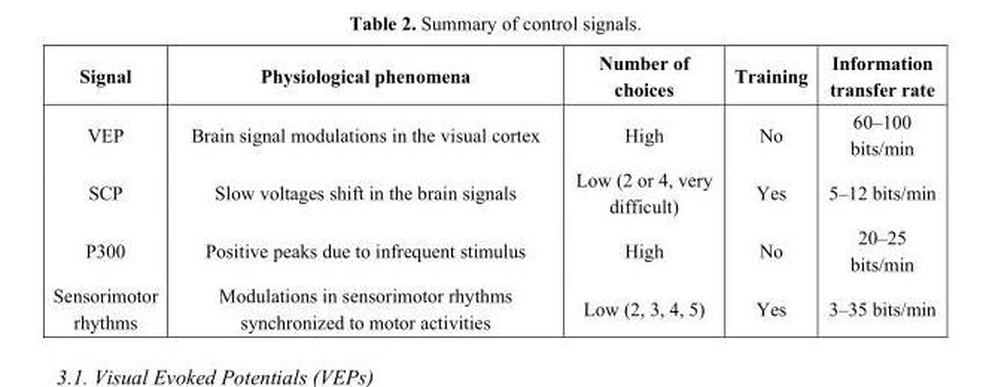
<table><thead><tr><td>Signal</td><td>Physiological phenomena</td><td>Number of choices</td><td>Training</td><td>Information transfer rate</td></tr></thead><tbody><tr><td>VEP</td><td>Brain signal modulations in the visual cortex</td><td>High</td><td>No</td><td>60–100 bits/min</td></tr><tr><td>SCP</td><td>Slow voltages shift in the brain signals</td><td>Low (2 or 4, very difficult)</td><td>Yes</td><td>5–12 bits/min</td></tr><tr><td>P300</td><td>Positive peaks due to infrequent stimulus</td><td>High</td><td>No</td><td>20–25 bits/min</td></tr><tr><td>Sensorimotor rhythms</td><td>Modulations in sensorimotor rhythms synchronized to motor activities</td><td>Low (2, 3, 4, 5)</td><td>Yes</td><td>3–35 bits/min</td></tr></tbody></table>